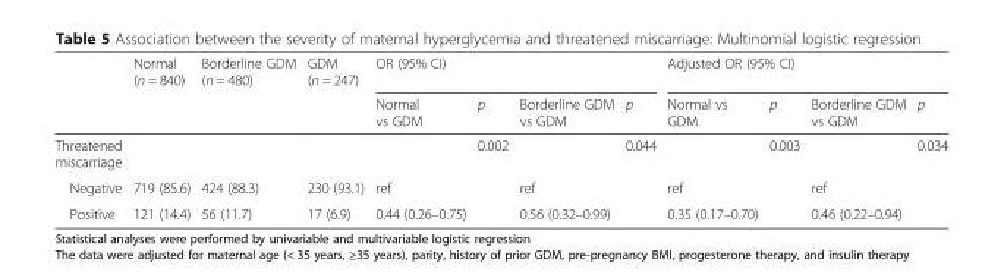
<table><thead><tr><td rowspan="2"></td><td rowspan="2">Normal (n = 840)</td><td rowspan="2">Borderline GDM (n = 480)</td><td rowspan="2">GDM (n = 247)</td><td colspan="4">OR (95% CI)</td><td colspan="4">Adjusted OR (95% CI)</td></tr><tr><td>Normal vs GDM</td><td>p</td><td>Borderline GDM vs GDM</td><td>p</td><td>Normal vs GDM</td><td>p</td><td>Borderline GDM vs GDM</td><td>p</td></tr></thead><tbody><tr><td>Threatened miscarriage</td><td></td><td></td><td></td><td></td><td>0.002</td><td></td><td>0.044</td><td></td><td>0.003</td><td></td><td>0.034</td></tr><tr><td>Negative</td><td>719 (85.6)</td><td>424 (88.3)</td><td>230 (93.1)</td><td>ref</td><td></td><td>ref</td><td></td><td>ref</td><td></td><td>ref</td><td></td></tr><tr><td>Positive</td><td>121 (14.4)</td><td>56 (11.7)</td><td>17 (6.9)</td><td>0.44 (0.26–0.75)</td><td></td><td>0.56 (0.32–0.99)</td><td></td><td>0.35 (0.17–0.70)</td><td></td><td>0.46 (0.22–0.94)</td><td></td></tr></tbody></table>